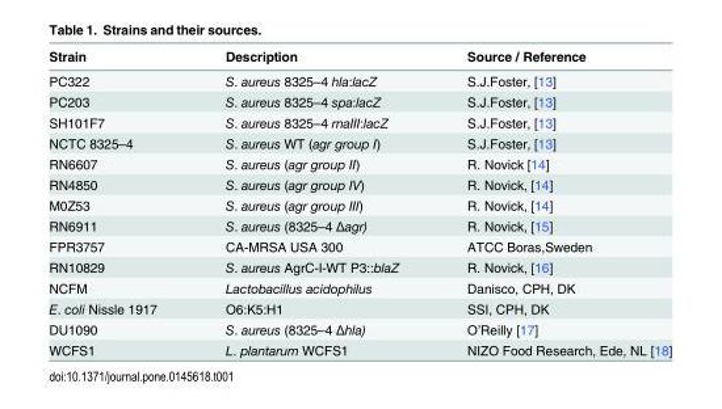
<table><thead><tr><td>Strain</td><td>Description</td><td>Source / Reference</td></tr></thead><tbody><tr><td>PC322</td><td>S. aureus 8325–4 hla:lacZ</td><td>S.J.Foster, [13]</td></tr><tr><td>PC203</td><td>S. aureus 8325–4 spa:lacZ</td><td>S.J.Foster, [13]</td></tr><tr><td>SH101F7</td><td>S. aureus 8325–4 rnaIII:lacZ</td><td>S.J.Foster, [13]</td></tr><tr><td>NCTC 8325–4</td><td>S. aureus WT (agr group I)</td><td>S.J.Foster, [13]</td></tr><tr><td>RN6607</td><td>S. aureus (agr group II)</td><td>R. Novick [14]</td></tr><tr><td>RN4850</td><td>S. aureus (agr group IV)</td><td>R. Novick, [14]</td></tr><tr><td>M0Z53</td><td>S. aureus (agr group III)</td><td>R. Novick, [14]</td></tr><tr><td>RN6911</td><td>S. aureus (8325–4 Δagr)</td><td>R. Novick, [15]</td></tr><tr><td>FPR3757</td><td>CA-MRSA USA 300</td><td>ATCC Boras,Sweden</td></tr><tr><td>RN10829</td><td>S. aureus AgrC-I-WT P3::blaZ</td><td>R. Novick, [16]</td></tr><tr><td>NCFM</td><td>Lactobacillus acidophilus</td><td>Danisco, CPH, DK</td></tr><tr><td>E. coli Nissle 1917</td><td>O6:K5:H1</td><td>SSI, CPH, DK</td></tr><tr><td>DU1090</td><td>S. aureus (8325–4 Δhla)</td><td>O’Reilly [17]</td></tr><tr><td>WCFS1</td><td>L. plantarum WCFS1</td><td>NIZO Food Research, Ede, NL [18]</td></tr></tbody></table>